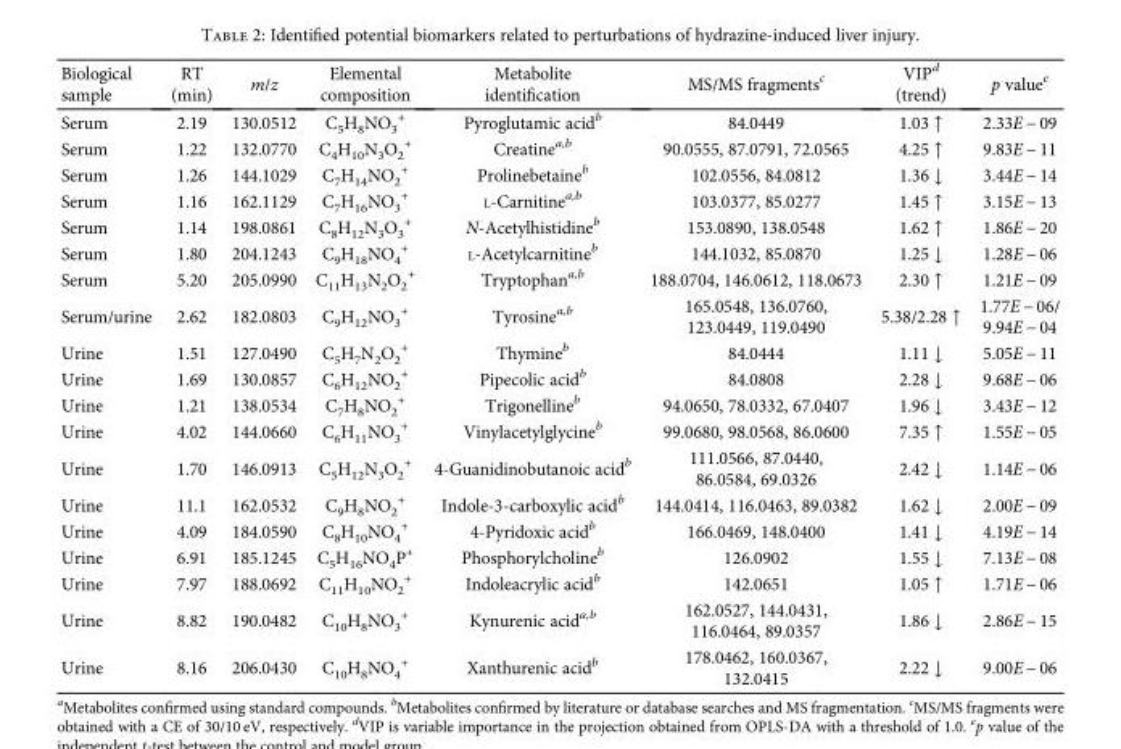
<table><thead><tr><td>Biological sample</td><td>RT (min)</td><td>m/z</td><td>Elemental composition</td><td>Metabolite identification</td><td>MS/MS fragments<sup>c</sup></td><td>VIP<sup>d</sup> (trend)</td><td>p value<sup>e</sup></td></tr></thead><tbody><tr><td>Serum</td><td>2.19</td><td>130.0512</td><td>C<sub>5</sub>H<sub>8</sub>NO<sub>3</sub> <sup>+</sup></td><td>Pyroglutamic acid<sup>b</sup></td><td>84.0449</td><td>1.03 ↑</td><td>2.33E − 09</td></tr><tr><td>Serum</td><td>1.22</td><td>132.0770</td><td>C<sub>4</sub>H<sub>10</sub>N<sub>3</sub>O<sub>2</sub> <sup>+</sup></td><td>Creatine<sup>a,b</sup></td><td>90.0555, 87.0791, 72.0565</td><td>4.25 ↑</td><td>9.83E − 11</td></tr><tr><td>Serum</td><td>1.26</td><td>144.1029</td><td>C<sub>7</sub>H<sub>14</sub>NO<sub>2</sub> <sup>+</sup></td><td>Prolinebetaine<sup>b</sup></td><td>102.0556, 84.0812</td><td>1.36 ↓</td><td>3.44E − 14</td></tr><tr><td>Serum</td><td>1.16</td><td>162.1129</td><td>C<sub>7</sub>H<sub>16</sub>NO<sub>3</sub> <sup>+</sup></td><td>L-Carnitine<sup>a,b</sup></td><td>103.0377, 85.0277</td><td>1.45 ↑</td><td>3.15E − 13</td></tr><tr><td>Serum</td><td>1.14</td><td>198.0861</td><td>C<sub>8</sub>H<sub>12</sub>N<sub>3</sub>O<sub>3</sub> <sup>+</sup></td><td>N-Acetylhistidine<sup>b</sup></td><td>153.0890, 138.0548</td><td>1.62 ↑</td><td>1.86E − 20</td></tr><tr><td>Serum</td><td>1.80</td><td>204.1243</td><td>C<sub>9</sub>H<sub>18</sub>NO<sub>4</sub> <sup>+</sup></td><td>L-Acetylcarnitine<sup>b</sup></td><td>144.1032, 85.0870</td><td>1.25 ↓</td><td>1.28E − 06</td></tr><tr><td>Serum</td><td>5.20</td><td>205.0990</td><td>C<sub>11</sub>H<sub>13</sub>N<sub>2</sub>O<sub>2</sub> <sup>+</sup></td><td>Tryptophan<sup>a,b</sup></td><td>188.0704, 146.0612, 118.0673</td><td>2.30 ↑</td><td>1.21E − 09</td></tr><tr><td>Serum/urine</td><td>2.62</td><td>182.0803</td><td>C<sub>9</sub>H<sub>12</sub>NO<sub>3</sub> <sup>+</sup></td><td>Tyrosine<sup>a,b</sup></td><td>165.0548, 136.0760, 123.0449, 119.0490</td><td>5.38/2.28 ↑</td><td>1.77E − 06/ 9.94E − 04</td></tr><tr><td>Urine</td><td>1.51</td><td>127.0490</td><td>C<sub>5</sub>H<sub>7</sub>N<sub>2</sub>O<sub>2</sub> <sup>+</sup></td><td>Thymine<sup>b</sup></td><td>84.0444</td><td>1.11 ↓</td><td>5.05E − 11</td></tr><tr><td>Urine</td><td>1.69</td><td>130.0857</td><td>C<sub>6</sub>H<sub>12</sub>NO<sub>2</sub> <sup>+</sup></td><td>Pipecolic acid<sup>b</sup></td><td>84.0808</td><td>2.28 ↓</td><td>9.68E − 06</td></tr><tr><td>Urine</td><td>1.21</td><td>138.0534</td><td>C<sub>7</sub>H<sub>8</sub>NO<sub>2</sub> <sup>+</sup></td><td>Trigonelline<sup>b</sup></td><td>94.0650, 78.0332, 67.0407</td><td>1.96 ↓</td><td>3.43E − 12</td></tr><tr><td>Urine</td><td>4.02</td><td>144.0660</td><td>C<sub>6</sub>H<sub>11</sub>NO<sub>3</sub> <sup>+</sup></td><td>Vinylacetylglycine<sup>b</sup></td><td>99.0680, 98.0568, 86.0600</td><td>7.35 ↑</td><td>1.55E − 05</td></tr><tr><td>Urine</td><td>1.70</td><td>146.0913</td><td>C<sub>5</sub>H<sub>12</sub>N<sub>3</sub>O<sub>2</sub> <sup>+</sup></td><td>4-Guanidinobutanoic acid<sup>b</sup></td><td>111.0566, 87.0440, 86.0584, 69.0326</td><td>2.42 ↓</td><td>1.14E − 06</td></tr><tr><td>Urine</td><td>11.1</td><td>162.0532</td><td>C<sub>9</sub>H<sub>8</sub>NO<sub>2</sub> <sup>+</sup></td><td>Indole-3-carboxylic acid<sup>b</sup></td><td>144.0414, 116.0463, 89.0382</td><td>1.62 ↓</td><td>2.00E − 09</td></tr><tr><td>Urine</td><td>4.09</td><td>184.0590</td><td>C<sub>8</sub>H<sub>10</sub>NO<sub>4</sub> <sup>+</sup></td><td>4-Pyridoxic acid<sup>b</sup></td><td>166.0469, 148.0400</td><td>1.41 ↓</td><td>4.19E − 14</td></tr><tr><td>Urine</td><td>6.91</td><td>185.1245</td><td>C<sub>5</sub>H<sub>16</sub>NO<sub>4</sub>P<sup>+</sup></td><td>Phosphorylcholine<sup>b</sup></td><td>126.0902</td><td>1.55 ↓</td><td>7.13E − 08</td></tr><tr><td>Urine</td><td>7.97</td><td>188.0692</td><td>C<sub>11</sub>H<sub>10</sub>NO<sub>2</sub> <sup>+</sup></td><td>Indoleacrylic acid<sup>b</sup></td><td>142.0651</td><td>1.05 ↑</td><td>1.71E − 06</td></tr><tr><td>Urine</td><td>8.82</td><td>190.0482</td><td>C<sub>10</sub>H<sub>8</sub>NO<sub>3</sub> <sup>+</sup></td><td>Kynurenic acid<sup>a,b</sup></td><td>162.0527, 144.0431, 116.0464, 89.0357</td><td>1.86 ↓</td><td>2.86E − 15</td></tr><tr><td>Urine</td><td>8.16</td><td>206.0430</td><td>C<sub>10</sub>H<sub>8</sub>NO<sub>4</sub> <sup>+</sup></td><td>Xanthurenic acid<sup>b</sup></td><td>178.0462, 160.0367, 132.0415</td><td>2.22 ↓</td><td>9.00E − 06</td></tr></tbody></table>